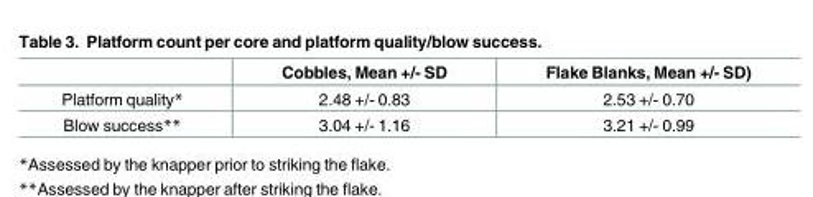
<table><thead><tr><td></td><td>Cobbles, Mean +/- SD</td><td>Flake Blanks, Mean +/- SD)</td></tr></thead><tbody><tr><td>Platform quality*</td><td>2.48 +/- 0.83</td><td>2.53 +/- 0.70</td></tr><tr><td>Blow success**</td><td>3.04 +/- 1.16</td><td>3.21 +/- 0.99</td></tr></tbody></table>